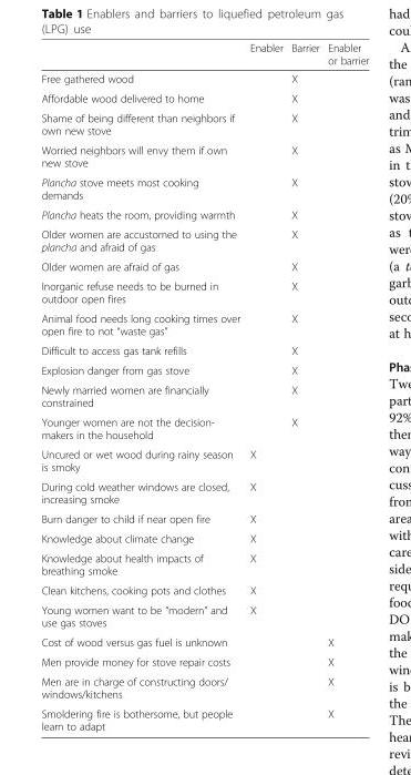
<table><thead><tr><td></td><td>Enabler</td><td>Barrier</td><td>Enabler or barrier</td></tr></thead><tbody><tr><td>Free gathered wood</td><td></td><td>X</td><td></td></tr><tr><td>Affordable wood delivered to home</td><td></td><td>X</td><td></td></tr><tr><td>Shame of being different than neighbors if own new stove</td><td></td><td>X</td><td></td></tr><tr><td>Worried neighbors will envy them if own new stove</td><td></td><td>X</td><td></td></tr><tr><td>Plancha stove meets most cooking demands</td><td></td><td>X</td><td></td></tr><tr><td>Plancha heats the room, providing warmth</td><td></td><td>X</td><td></td></tr><tr><td>Older women are accustomed to using the plancha and afraid of gas</td><td></td><td>X</td><td></td></tr><tr><td>Older women are afraid of gas</td><td></td><td>X</td><td></td></tr><tr><td>Inorganic refuse needs to be burned in outdoor open fires</td><td></td><td>X</td><td></td></tr><tr><td>Animal food needs long cooking times over open fire to not “waste gas”</td><td></td><td>X</td><td></td></tr><tr><td>Difficult to access gas tank refills</td><td></td><td>X</td><td></td></tr><tr><td>Explosion danger from gas stove</td><td></td><td>X</td><td></td></tr><tr><td>Newly married women are financially constrained</td><td></td><td>X</td><td></td></tr><tr><td>Younger women are not the decision- makers in the household</td><td></td><td>X</td><td></td></tr><tr><td>Uncured or wet wood during rainy season is smoky</td><td>X</td><td></td><td></td></tr><tr><td>During cold weather windows are closed, increasing smoke</td><td>X</td><td></td><td></td></tr><tr><td>Burn danger to child if near open fire</td><td>X</td><td></td><td></td></tr><tr><td>Knowledge about climate change</td><td>X</td><td></td><td></td></tr><tr><td>Knowledge about health impacts of breathing smoke</td><td>X</td><td></td><td></td></tr><tr><td>Clean kitchens, cooking pots and clothes</td><td>X</td><td></td><td></td></tr><tr><td>Young women want to be “modern” and use gas stoves</td><td>X</td><td></td><td></td></tr><tr><td>Cost of wood versus gas fuel is unknown</td><td></td><td></td><td>X</td></tr><tr><td>Men provide money for stove repair costs</td><td></td><td></td><td>X</td></tr><tr><td>Men are in charge of constructing doors/ windows/kitchens</td><td></td><td></td><td>X</td></tr><tr><td>Smoldering fire is bothersome, but people learn to adapt</td><td></td><td></td><td>X</td></tr></tbody></table>